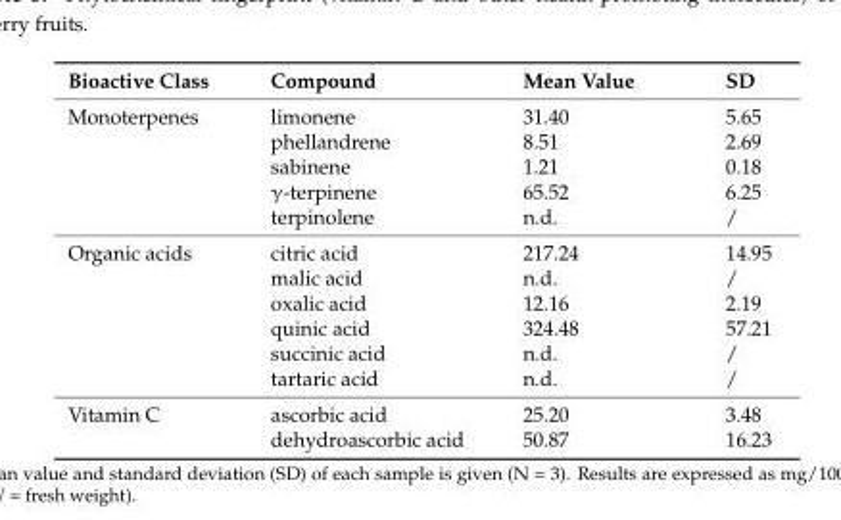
<table><thead><tr><td>Bioactive Class</td><td>Compound</td><td>Mean Value</td><td>SD</td></tr></thead><tbody><tr><td rowspan="5">Monoterpenes</td><td>limonene</td><td>31.40</td><td>5.65</td></tr><tr><td>phellandrene</td><td>8.51</td><td>2.69</td></tr><tr><td>sabinene</td><td>1.21</td><td>0.18</td></tr><tr><td>γ-terpinene</td><td>65.52</td><td>6.25</td></tr><tr><td>terpinolene</td><td>n.d.</td><td>/</td></tr><tr><td rowspan="6">Organic acids</td><td>citric acid</td><td>217.24</td><td>14.95</td></tr><tr><td>malic acid</td><td>n.d.</td><td>/</td></tr><tr><td>oxalic acid</td><td>12.16</td><td>2.19</td></tr><tr><td>quinic acid</td><td>324.48</td><td>57.21</td></tr><tr><td>succinic acid</td><td>n.d.</td><td>/</td></tr><tr><td>tartaric acid</td><td>n.d.</td><td>/</td></tr><tr><td rowspan="2">Vitamin C</td><td>ascorbic acid</td><td>25.20</td><td>3.48</td></tr><tr><td>dehydroascorbic acid</td><td>50.87</td><td>16.23</td></tr></tbody></table>